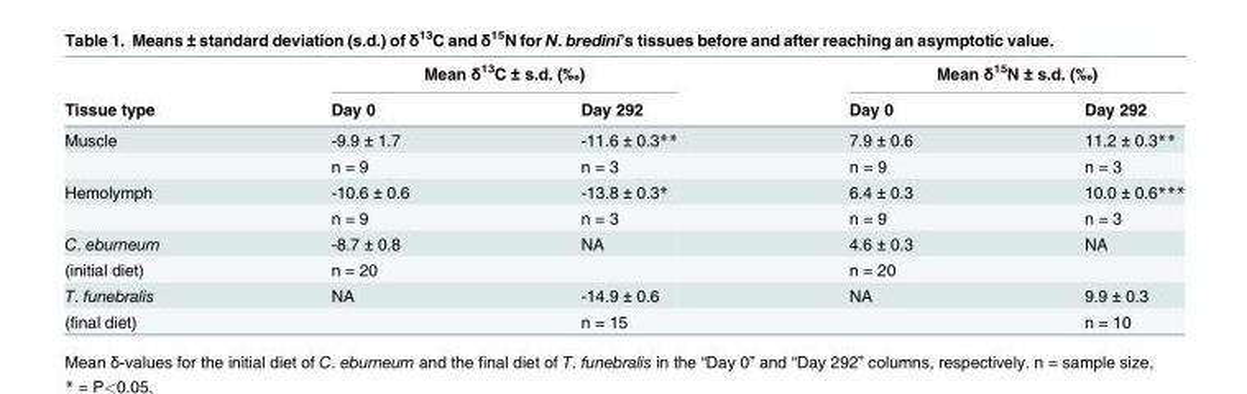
<table><thead><tr><td rowspan="2">Tissue type</td><td colspan="2">Mean δ<sup>13</sup>C ± s.d. (‰)</td><td colspan="2">Mean δ<sup>15</sup>N ± s.d. (‰)</td></tr><tr><td>Day 0</td><td>Day 292</td><td>Day 0</td><td>Day 292</td></tr></thead><tbody><tr><td rowspan="2">Muscle</td><td>-9.9 ± 1.7</td><td>-11.6 ± 0.3**</td><td>7.9 ± 0.6</td><td>11.2 ± 0.3**</td></tr><tr><td>n = 9</td><td>n = 3</td><td>n = 9</td><td>n = 3</td></tr><tr><td rowspan="2">Hemolymph</td><td>-10.6 ± 0.6</td><td>-13.8 ± 0.3*</td><td>6.4 ± 0.3</td><td>10.0 ± 0.6***</td></tr><tr><td>n = 9</td><td>n = 3</td><td>n = 9</td><td>n = 3</td></tr><tr><td>C. eburneum</td><td>-8.7 ± 0.8</td><td>NA</td><td>4.6 ± 0.3</td><td>NA</td></tr><tr><td>(initial diet)</td><td>n = 20</td><td></td><td>n = 20</td><td></td></tr><tr><td>T. funebralis</td><td>NA</td><td>-14.9 ± 0.6</td><td>NA</td><td>9.9 ± 0.3</td></tr><tr><td>(final diet)</td><td></td><td>n = 15</td><td></td><td>n = 10</td></tr></tbody></table>